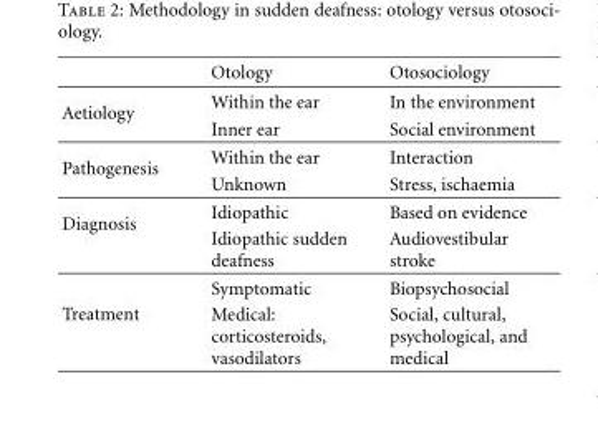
<table><thead><tr><td></td><td>Otology</td><td>Otosociology</td></tr></thead><tbody><tr><td rowspan="2">Aetiology</td><td>Within the ear</td><td>In the environment</td></tr><tr><td>Inner ear</td><td>Social environment</td></tr><tr><td rowspan="2">Pathogenesis</td><td>Within the ear</td><td>Interaction</td></tr><tr><td>Unknown</td><td>Stress, ischaemia</td></tr><tr><td rowspan="2">Diagnosis</td><td>Idiopathic</td><td>Based on evidence</td></tr><tr><td>Idiopathic sudden deafness</td><td>Audiovestibular stroke</td></tr><tr><td rowspan="2">Treatment</td><td>Symptomatic</td><td>Biopsychosocial</td></tr><tr><td>Medical: corticosteroids, vasodilators</td><td>Social, cultural, psychological, and medical</td></tr></tbody></table>